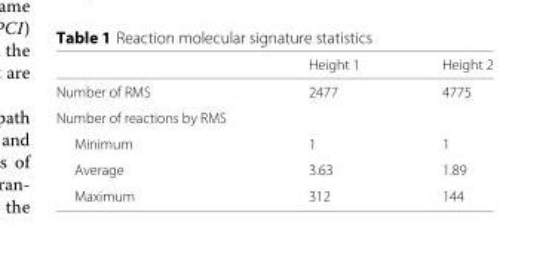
<table><thead><tr><td></td><td>Height 1</td><td>Height 2</td></tr></thead><tbody><tr><td>Number of RMS</td><td>2477</td><td>4775</td></tr><tr><td colspan="3">Number of reactions by RMS</td></tr><tr><td>Minimum</td><td>1</td><td>1</td></tr><tr><td>Average</td><td>3.63</td><td>1.89</td></tr><tr><td>Maximum</td><td>312</td><td>144</td></tr></tbody></table>